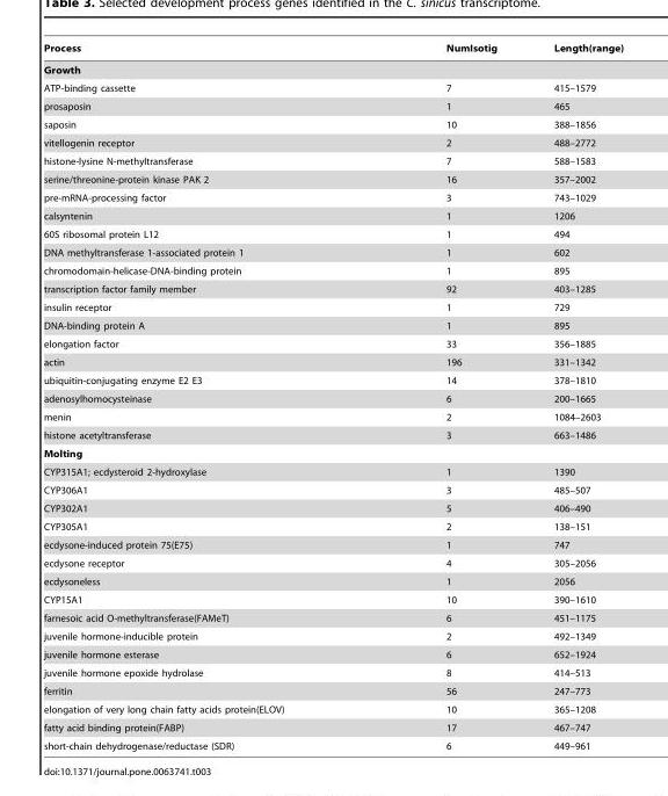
<table><thead><tr><td>Process</td><td>NumIsotig</td><td>Length(range)</td></tr></thead><tbody><tr><td colspan="3">Growth</td></tr><tr><td>ATP-binding cassette</td><td>7</td><td>415–1579</td></tr><tr><td>prosaposin</td><td>1</td><td>465</td></tr><tr><td>saposin</td><td>10</td><td>388–1856</td></tr><tr><td>vitellogenin receptor</td><td>2</td><td>488–2772</td></tr><tr><td>histone-lysine N-methyltransferase</td><td>7</td><td>588–1583</td></tr><tr><td>serine/threonine-protein kinase PAK 2</td><td>16</td><td>357–2002</td></tr><tr><td>pre-mRNA-processing factor</td><td>3</td><td>743–1029</td></tr><tr><td>calsyntenin</td><td>1</td><td>1206</td></tr><tr><td>60S ribosomal protein L12</td><td>1</td><td>494</td></tr><tr><td>DNA methyltransferase 1-associated protein 1</td><td>1</td><td>602</td></tr><tr><td>chromodomain-helicase-DNA-binding protein</td><td>1</td><td>895</td></tr><tr><td>transcription factor family member</td><td>92</td><td>403–1285</td></tr><tr><td>insulin receptor</td><td>1</td><td>729</td></tr><tr><td>DNA-binding protein A</td><td>1</td><td>895</td></tr><tr><td>elongation factor</td><td>33</td><td>356–1885</td></tr><tr><td>actin</td><td>196</td><td>331–1342</td></tr><tr><td>ubiquitin-conjugating enzyme E2 E3</td><td>14</td><td>378–1810</td></tr><tr><td>adenosylhomocysteinase</td><td>6</td><td>200–1665</td></tr><tr><td>menin</td><td>2</td><td>1084–2603</td></tr><tr><td>histone acetyltransferase</td><td>3</td><td>663–1486</td></tr><tr><td colspan="3">Molting</td></tr><tr><td>CYP315A1; ecdysteroid 2-hydroxylase</td><td>1</td><td>1390</td></tr><tr><td>CYP306A1</td><td>3</td><td>485–507</td></tr><tr><td>CYP302A1</td><td>5</td><td>406–490</td></tr><tr><td>CYP305A1</td><td>2</td><td>138–151</td></tr><tr><td>ecdysone-induced protein 75(E75)</td><td>1</td><td>747</td></tr><tr><td>ecdysone receptor</td><td>4</td><td>305–2056</td></tr><tr><td>ecdysoneless</td><td>1</td><td>2056</td></tr><tr><td>CYP15A1</td><td>10</td><td>390–1610</td></tr><tr><td>farnesoic acid O-methyltransferase(FAMeT)</td><td>6</td><td>451–1175</td></tr><tr><td>juvenile hormone-inducible protein</td><td>2</td><td>492–1349</td></tr><tr><td>juvenile hormone esterase</td><td>6</td><td>652–1924</td></tr><tr><td>juvenile hormone epoxide hydrolase</td><td>8</td><td>414–513</td></tr><tr><td>ferritin</td><td>56</td><td>247–773</td></tr><tr><td>elongation of very long chain fatty acids protein(ELOV)</td><td>10</td><td>365–1208</td></tr><tr><td>fatty acid binding protein(FABP)</td><td>17</td><td>467–747</td></tr><tr><td>short-chain dehydrogenase/reductase (SDR)</td><td>6</td><td>449–961</td></tr></tbody></table>